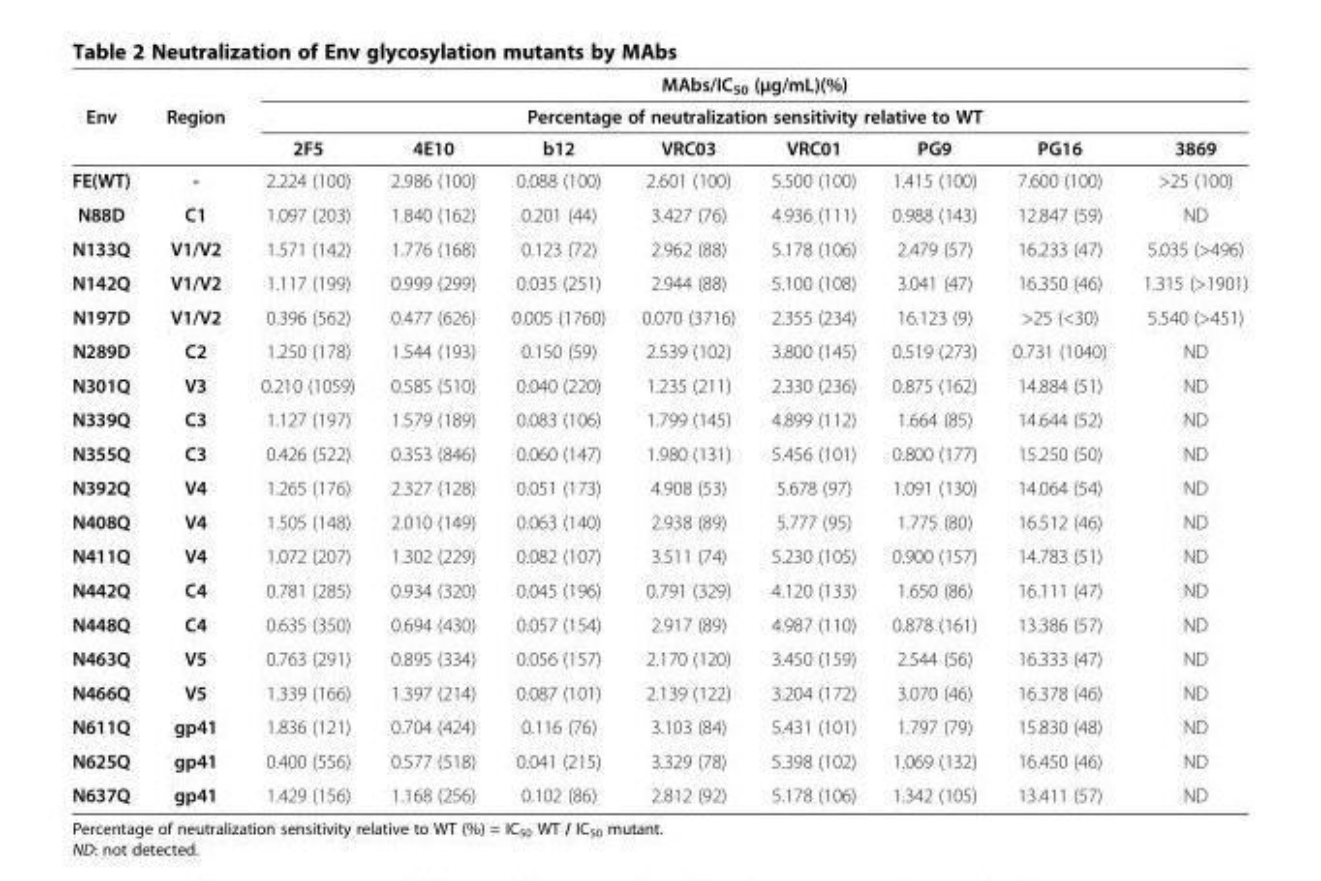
<table><thead><tr><td rowspan="3">Env</td><td rowspan="3">Region</td><td rowspan="2" colspan="8">MAbs/IC<sub>50</sub> (μg/mL)(%) Percentage of neutralization sensitivity relative to WT</td></tr><tr></tr><tr><td>2F5</td><td>4E10</td><td>b12</td><td>VRC03</td><td>VRC01</td><td>PG9</td><td>PG16</td><td>3869</td></tr></thead><tbody><tr><td>FE(WT)</td><td>-</td><td>2.224 (100)</td><td>2.986 (100)</td><td>0.088 (100)</td><td>2.601 (100)</td><td>5.500 (100)</td><td>1.415 (100)</td><td>7.600 (100)</td><td>&gt;25 (100)</td></tr><tr><td>N88D</td><td>C1</td><td>1.097 (203)</td><td>1.840 (162)</td><td>0.201 (44)</td><td>3.427 (76)</td><td>4.936 (111)</td><td>0.988 (143)</td><td>12.847 (59)</td><td>ND</td></tr><tr><td>N133Q</td><td>V1/V2</td><td>1.571 (142)</td><td>1.776 (168)</td><td>0.123 (72)</td><td>2.962 (88)</td><td>5.178 (106)</td><td>2.479 (57)</td><td>16.233 (47)</td><td>5.035 (&gt;496)</td></tr><tr><td>N142Q</td><td>V1/V2</td><td>1.117 (199)</td><td>0.999 (299)</td><td>0.035 (251)</td><td>2.944 (88)</td><td>5.100 (108)</td><td>3.041 (47)</td><td>16.350 (46)</td><td>1.315 (&gt;1901)</td></tr><tr><td>N197D</td><td>V1/V2</td><td>0.396 (562)</td><td>0.477 (626)</td><td>0.005 (1760)</td><td>0.070 (3716)</td><td>2.355 (234)</td><td>16.123 (9)</td><td>&gt;25 (&lt;30)</td><td>5.540 (&gt;451)</td></tr><tr><td>N289D</td><td>C2</td><td>1.250 (178)</td><td>1.544 (193)</td><td>0.150 (59)</td><td>2.539 (102)</td><td>3.800 (145)</td><td>0.519 (273)</td><td>0.731 (1040)</td><td>ND</td></tr><tr><td>N301Q</td><td>V3</td><td>0.210 (1059)</td><td>0.585 (510)</td><td>0.040 (220)</td><td>1.235 (211)</td><td>2.330 (236)</td><td>0.875 (162)</td><td>14.884 (51)</td><td>ND</td></tr><tr><td>N339Q</td><td>C3</td><td>1.127 (197)</td><td>1.579 (189)</td><td>0.083 (106)</td><td>1.799 (145)</td><td>4.899 (112)</td><td>1.664 (85)</td><td>14.644 (52)</td><td>ND</td></tr><tr><td>N355Q</td><td>C3</td><td>0.426 (522)</td><td>0.353 (846)</td><td>0.060 (147)</td><td>1.980 (131)</td><td>5.456 (101)</td><td>0.800 (177)</td><td>15.250 (50)</td><td>ND</td></tr><tr><td>N392Q</td><td>V4</td><td>1.265 (176)</td><td>2.327 (128)</td><td>0.051 (173)</td><td>4.908 (53)</td><td>5.678 (97)</td><td>1.091 (130)</td><td>14.064 (54)</td><td>ND</td></tr><tr><td>N408Q</td><td>V4</td><td>1.505 (148)</td><td>2.010 (149)</td><td>0.063 (140)</td><td>2.938 (89)</td><td>5.777 (95)</td><td>1.775 (80)</td><td>16.512 (46)</td><td>ND</td></tr><tr><td>N411Q</td><td>V4</td><td>1.072 (207)</td><td>1.302 (229)</td><td>0.082 (107)</td><td>3.511 (74)</td><td>5.230 (105)</td><td>0.900 (157)</td><td>14.783 (51)</td><td>ND</td></tr><tr><td>N442Q</td><td>C4</td><td>0.781 (285)</td><td>0.934 (320)</td><td>0.045 (196)</td><td>0.791 (329)</td><td>4.120 (133)</td><td>1.650 (86)</td><td>16.111 (47)</td><td>ND</td></tr><tr><td>N448Q</td><td>C4</td><td>0.635 (350)</td><td>0.694 (430)</td><td>0.057 (154)</td><td>2.917 (89)</td><td>4.987 (110)</td><td>0.878 (161)</td><td>13.386 (57)</td><td>ND</td></tr><tr><td>N463Q</td><td>V5</td><td>0.763 (291)</td><td>0.895 (334)</td><td>0.056 (157)</td><td>2.170 (120)</td><td>3.450 (159)</td><td>2.544 (56)</td><td>16.333 (47)</td><td>ND</td></tr><tr><td>N466Q</td><td>V5</td><td>1.339 (166)</td><td>1.397 (214)</td><td>0.087 (101)</td><td>2.139 (122)</td><td>3.204 (172)</td><td>3.070 (46)</td><td>16.378 (46)</td><td>ND</td></tr><tr><td>N611Q</td><td>gp41</td><td>1.836 (121)</td><td>0.704 (424)</td><td>0.116 (76)</td><td>3.103 (84)</td><td>5.431 (101)</td><td>1.797 (79)</td><td>15.830 (48)</td><td>ND</td></tr><tr><td>N625Q</td><td>gp41</td><td>0.400 (556)</td><td>0.577 (518)</td><td>0.041 (215)</td><td>3.329 (78)</td><td>5.398 (102)</td><td>1.069 (132)</td><td>16.450 (46)</td><td>ND</td></tr><tr><td>N637Q</td><td>gp41</td><td>1.429 (156)</td><td>1.168 (256)</td><td>0.102 (86)</td><td>2.812 (92)</td><td>5.178 (106)</td><td>1.342 (105)</td><td>13.411 (57)</td><td>ND</td></tr></tbody></table>